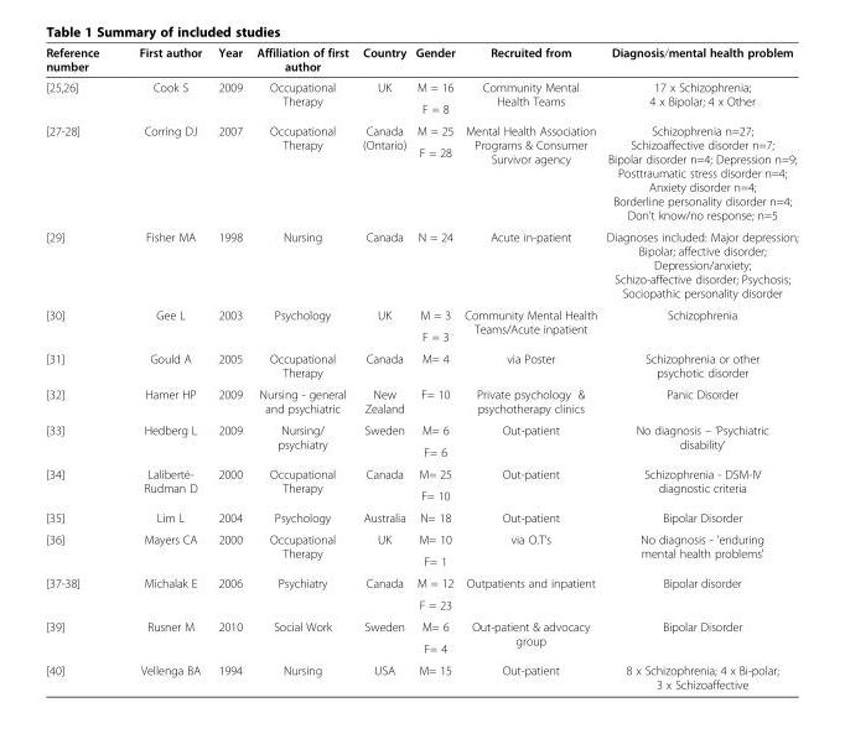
<table><thead><tr><td>Reference number</td><td>First author</td><td>Year</td><td>Affiliation of first author</td><td>Country</td><td>Gender</td><td>Recruited from</td><td>Diagnosis/mental health problem</td></tr></thead><tbody><tr><td rowspan="2">[25,26]</td><td rowspan="2">Cook S</td><td rowspan="2">2009</td><td rowspan="2">Occupational Therapy</td><td rowspan="2">UK</td><td>M = 16</td><td rowspan="2">Community Mental Health Teams</td><td rowspan="2">17 x Schizophrenia; 4 x Bipolar; 4 x Other</td></tr><tr><td>F = 8</td></tr><tr><td rowspan="2">[27-28]</td><td rowspan="2">Corring DJ</td><td rowspan="2">2007</td><td rowspan="2">Occupational Therapy</td><td rowspan="2">Canada (Ontario)</td><td>M = 25</td><td rowspan="2">Mental Health Association Programs &amp; Consumer Survivor agency</td><td rowspan="2">Schizophrenia n=27; Schizoaffective disorder n=7; Bipolar disorder n=4; Depression n=9; Posttraumatic stress disorder n=4; Anxiety disorder n=4; Borderline personality disorder n=4; Don’t know/no response; n=5</td></tr><tr><td>F = 28</td></tr><tr><td>[29]</td><td>Fisher MA</td><td>1998</td><td>Nursing</td><td>Canada</td><td>N = 24</td><td>Acute in-patient</td><td>Diagnoses included: Major depression; Bipolar; affective disorder; Depression/anxiety; Schizo-affective disorder; Psychosis; Sociopathic personality disorder</td></tr><tr><td rowspan="2">[30]</td><td rowspan="2">Gee L</td><td rowspan="2">2003</td><td rowspan="2">Psychology</td><td rowspan="2">UK</td><td>M = 3</td><td rowspan="2">Community Mental Health Teams/Acute inpatient</td><td rowspan="2">Schizophrenia</td></tr><tr><td>F = 3</td></tr><tr><td>[31]</td><td>Gould A</td><td>2005</td><td>Occupational Therapy</td><td>Canada</td><td>M= 4</td><td>via Poster</td><td>Schizophrenia or other psychotic disorder</td></tr><tr><td>[32]</td><td>Hamer HP</td><td>2009</td><td>Nursing - general and psychiatric</td><td>New Zealand</td><td>F= 10</td><td>Private psychology &amp; psychotherapy clinics</td><td>Panic Disorder</td></tr><tr><td rowspan="2">[33]</td><td rowspan="2">Hedberg L</td><td rowspan="2">2009</td><td rowspan="2">Nursing/ psychiatry</td><td rowspan="2">Sweden</td><td>M= 6</td><td rowspan="2">Out-patient</td><td rowspan="2">No diagnosis – ‘Psychiatric disability’</td></tr><tr><td>F= 6</td></tr><tr><td rowspan="2">[34]</td><td rowspan="2">Lalibertė- Rudman D</td><td rowspan="2">2000</td><td rowspan="2">Occupational Therapy</td><td rowspan="2">Canada</td><td>M= 25</td><td rowspan="2">Out-patient</td><td rowspan="2">Schizophrenia - DSM-IV diagnostic criteria</td></tr><tr><td>F= 10</td></tr><tr><td>[35]</td><td>Lim L</td><td>2004</td><td>Psychology</td><td>Australia</td><td>N= 18</td><td>Out-patient</td><td>Bipolar Disorder</td></tr><tr><td rowspan="2">[36]</td><td rowspan="2">Mayers CA</td><td rowspan="2">2000</td><td rowspan="2">Occupational Therapy</td><td rowspan="2">UK</td><td>M= 10</td><td rowspan="2">via O.T’s</td><td rowspan="2">No diagnosis - &#x27;enduring mental health problems&#x27;</td></tr><tr><td>F= 1</td></tr><tr><td rowspan="2">[37-38]</td><td rowspan="2">Michalak E</td><td rowspan="2">2006</td><td rowspan="2">Psychiatry</td><td rowspan="2">Canada</td><td>M = 12</td><td rowspan="2">Outpatients and inpatient</td><td rowspan="2">Bipolar disorder</td></tr><tr><td>F = 23</td></tr><tr><td rowspan="2">[39]</td><td rowspan="2">Rusner M</td><td rowspan="2">2010</td><td rowspan="2">Social Work</td><td rowspan="2">Sweden</td><td>M= 6</td><td rowspan="2">Out-patient &amp; advocacy group</td><td rowspan="2">Bipolar Disorder</td></tr><tr><td>F= 4</td></tr><tr><td>[40]</td><td>Vellenga BA</td><td>1994</td><td>Nursing</td><td>USA</td><td>M= 15</td><td>Out-patient</td><td>8 x Schizophrenia; 4 x Bi-polar; 3 x Schizoaffective</td></tr></tbody></table>